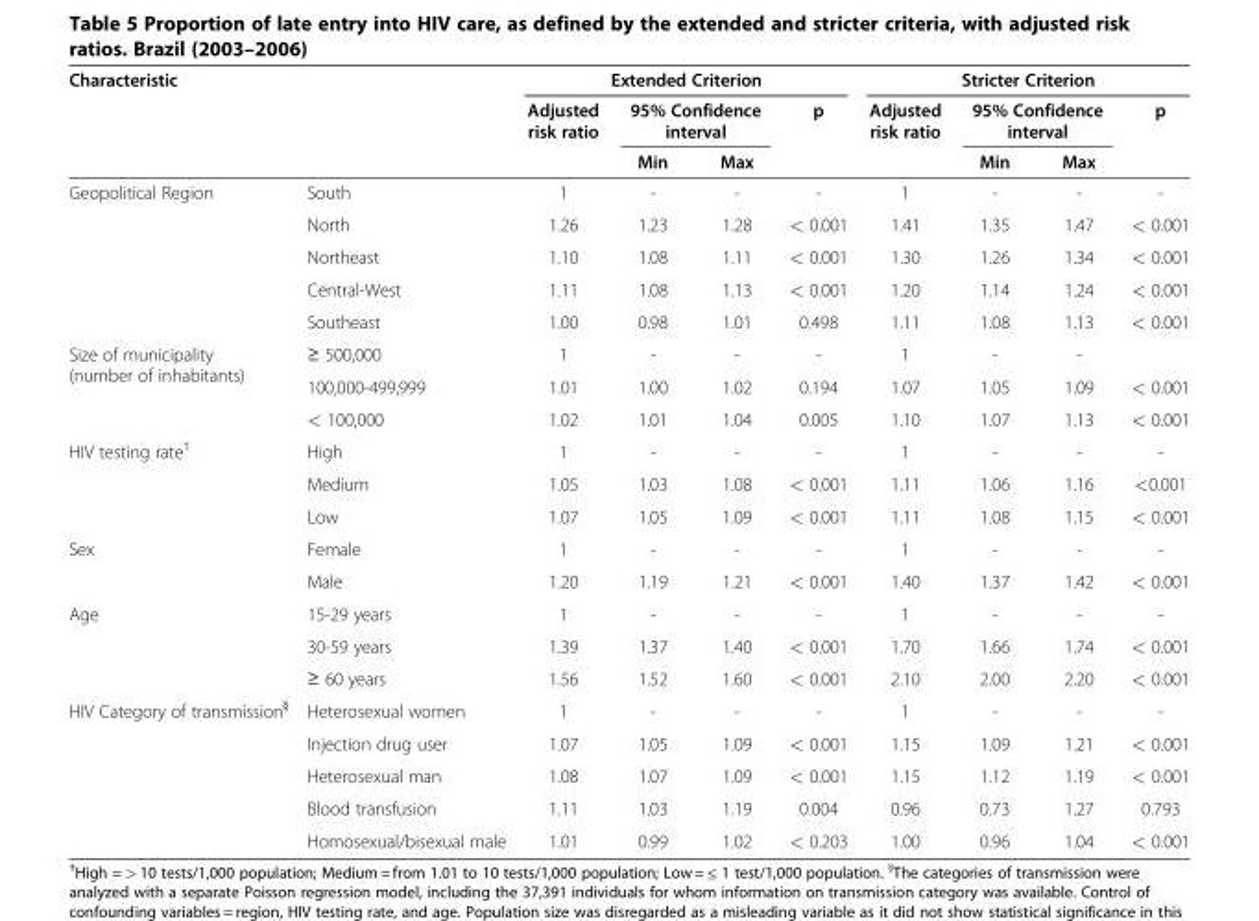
<table><thead><tr><td colspan="2">Characteristic</td><td colspan="4">Extended Criterion</td><td colspan="4">Stricter Criterion</td></tr><tr><td rowspan="2"></td><td rowspan="2"></td><td rowspan="2">Adjusted risk ratio</td><td colspan="2">95% Confidence interval</td><td rowspan="2">p</td><td rowspan="2">Adjusted risk ratio</td><td colspan="2">95% Confidence interval</td><td rowspan="2">p</td></tr><tr><td>Min</td><td>Max</td><td>Min</td><td>Max</td></tr></thead><tbody><tr><td rowspan="5">Geopolitical Region</td><td>South</td><td>1</td><td>-</td><td>-</td><td>-</td><td>1</td><td>-</td><td>-</td><td>-</td></tr><tr><td>North</td><td>1.26</td><td>1.23</td><td>1.28</td><td>&lt; 0.001</td><td>1.41</td><td>1.35</td><td>1.47</td><td>&lt; 0.001</td></tr><tr><td>Northeast</td><td>1.10</td><td>1.08</td><td>1.11</td><td>&lt; 0.001</td><td>1.30</td><td>1.26</td><td>1.34</td><td>&lt; 0.001</td></tr><tr><td>Central-West</td><td>1.11</td><td>1.08</td><td>1.13</td><td>&lt; 0.001</td><td>1.20</td><td>1.14</td><td>1.24</td><td>&lt; 0.001</td></tr><tr><td>Southeast</td><td>1.00</td><td>0.98</td><td>1.01</td><td>0.498</td><td>1.11</td><td>1.08</td><td>1.13</td><td>&lt; 0.001</td></tr><tr><td rowspan="3">Size of municipality (number of inhabitants)</td><td>≥ 500,000</td><td>1</td><td>-</td><td>-</td><td>-</td><td>1</td><td>-</td><td>-</td><td></td></tr><tr><td>100,000-499,999</td><td>1.01</td><td>1.00</td><td>1.02</td><td>0.194</td><td>1.07</td><td>1.05</td><td>1.09</td><td>&lt; 0.001</td></tr><tr><td>&lt; 100,000</td><td>1.02</td><td>1.01</td><td>1.04</td><td>0.005</td><td>1.10</td><td>1.07</td><td>1.13</td><td>&lt; 0.001</td></tr><tr><td rowspan="3">HIV testing rate<sup>†</sup></td><td>High</td><td>1</td><td>-</td><td>-</td><td>-</td><td>1</td><td>-</td><td>-</td><td>-</td></tr><tr><td>Medium</td><td>1.05</td><td>1.03</td><td>1.08</td><td>&lt; 0.001</td><td>1.11</td><td>1.06</td><td>1.16</td><td>&lt;0.001</td></tr><tr><td>Low</td><td>1.07</td><td>1.05</td><td>1.09</td><td>&lt; 0.001</td><td>1.11</td><td>1.08</td><td>1.15</td><td>&lt; 0.001</td></tr><tr><td rowspan="2">Sex</td><td>Female</td><td>1</td><td>-</td><td>-</td><td>-</td><td>1</td><td>-</td><td>-</td><td>-</td></tr><tr><td>Male</td><td>1.20</td><td>1.19</td><td>1.21</td><td>&lt; 0.001</td><td>1.40</td><td>1.37</td><td>1.42</td><td>&lt; 0.001</td></tr><tr><td rowspan="3">Age</td><td>15-29 years</td><td>1</td><td>-</td><td>-</td><td>-</td><td>1</td><td>-</td><td>-</td><td>-</td></tr><tr><td>30-59 years</td><td>1.39</td><td>1.37</td><td>1.40</td><td>&lt; 0.001</td><td>1.70</td><td>1.66</td><td>1.74</td><td>&lt; 0.001</td></tr><tr><td>≥ 60 years</td><td>1.56</td><td>1.52</td><td>1.60</td><td>&lt; 0.001</td><td>2.10</td><td>2.00</td><td>2.20</td><td>&lt; 0.001</td></tr><tr><td rowspan="5">HIV Category of transmission<sup>§</sup></td><td>Heterosexual women</td><td>1</td><td>-</td><td>-</td><td>-</td><td>1</td><td>-</td><td>-</td><td>-</td></tr><tr><td>Injection drug user</td><td>1.07</td><td>1.05</td><td>1.09</td><td>&lt; 0.001</td><td>1.15</td><td>1.09</td><td>1.21</td><td>&lt; 0.001</td></tr><tr><td>Heterosexual man</td><td>1.08</td><td>1.07</td><td>1.09</td><td>&lt; 0.001</td><td>1.15</td><td>1.12</td><td>1.19</td><td>&lt; 0.001</td></tr><tr><td>Blood transfusion</td><td>1.11</td><td>1.03</td><td>1.19</td><td>0.004</td><td>0.96</td><td>0.73</td><td>1.27</td><td>0.793</td></tr><tr><td>Homosexual/bisexual male</td><td>1.01</td><td>0.99</td><td>1.02</td><td>&lt; 0.203</td><td>1.00</td><td>0.96</td><td>1.04</td><td>&lt; 0.001</td></tr></tbody></table>